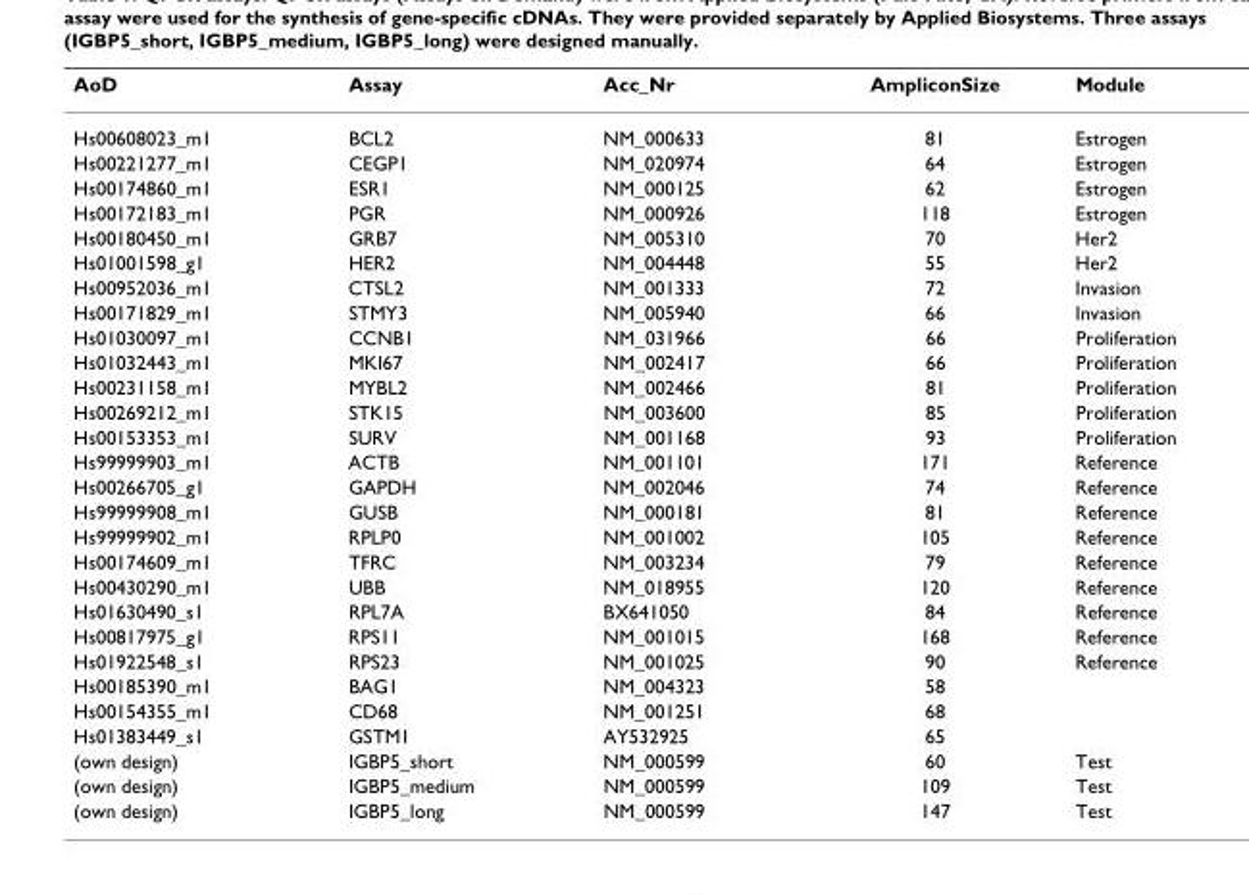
<table><thead><tr><td>AoD</td><td>Assay</td><td>Acc_Nr</td><td>AmpliconSize</td><td>Module</td></tr></thead><tbody><tr><td>Hs00608023_m1</td><td>BCL2</td><td>NM_000633</td><td>81</td><td>Estrogen</td></tr><tr><td>Hs00221277_m1</td><td>CEGP1</td><td>NM_020974</td><td>64</td><td>Estrogen</td></tr><tr><td>Hs00174860_m1</td><td>ESR1</td><td>NM_000125</td><td>62</td><td>Estrogen</td></tr><tr><td>Hs00172183_m1</td><td>PGR</td><td>NM_000926</td><td>118</td><td>Estrogen</td></tr><tr><td>Hs00180450_m1</td><td>GRB7</td><td>NM_005310</td><td>70</td><td>Her2</td></tr><tr><td>Hs01001598_g1</td><td>HER2</td><td>NM_004448</td><td>55</td><td>Her2</td></tr><tr><td>Hs00952036_m1</td><td>CTSL2</td><td>NM_001333</td><td>72</td><td>Invasion</td></tr><tr><td>Hs00171829_m1</td><td>STMY3</td><td>NM_005940</td><td>66</td><td>Invasion</td></tr><tr><td>Hs01030097_m1</td><td>CCNB1</td><td>NM_031966</td><td>66</td><td>Proliferation</td></tr><tr><td>Hs01032443_m1</td><td>MKI67</td><td>NM_002417</td><td>66</td><td>Proliferation</td></tr><tr><td>Hs00231158_m1</td><td>MYBL2</td><td>NM_002466</td><td>81</td><td>Proliferation</td></tr><tr><td>Hs00269212_m1</td><td>STK15</td><td>NM_003600</td><td>85</td><td>Proliferation</td></tr><tr><td>Hs00153353_m1</td><td>SURV</td><td>NM_001168</td><td>93</td><td>Proliferation</td></tr><tr><td>Hs99999903_m1</td><td>ACTB</td><td>NM_001101</td><td>171</td><td>Reference</td></tr><tr><td>Hs00266705_g1</td><td>GAPDH</td><td>NM_002046</td><td>74</td><td>Reference</td></tr><tr><td>Hs99999908_m1</td><td>GUSB</td><td>NM_000181</td><td>81</td><td>Reference</td></tr><tr><td>Hs99999902_m1</td><td>RPLP0</td><td>NM_001002</td><td>105</td><td>Reference</td></tr><tr><td>Hs00174609_m1</td><td>TFRC</td><td>NM_003234</td><td>79</td><td>Reference</td></tr><tr><td>Hs00430290_m1</td><td>UBB</td><td>NM_018955</td><td>120</td><td>Reference</td></tr><tr><td>Hs01630490_s1</td><td>RPL7A</td><td>BX641050</td><td>84</td><td>Reference</td></tr><tr><td>Hs00817975_g1</td><td>RPS11</td><td>NM_001015</td><td>168</td><td>Reference</td></tr><tr><td>Hs01922548_s1</td><td>RPS23</td><td>NM_001025</td><td>90</td><td>Reference</td></tr><tr><td>Hs00185390_m1</td><td>BAG1</td><td>NM_004323</td><td>58</td><td></td></tr><tr><td>Hs00154355_m1</td><td>CD68</td><td>NM_001251</td><td>68</td><td></td></tr><tr><td>Hs01383449_s1</td><td>GSTM1</td><td>AY532925</td><td>65</td><td></td></tr><tr><td>(own design)</td><td>IGBP5_short</td><td>NM_000599</td><td>60</td><td>Test</td></tr><tr><td>(own design)</td><td>IGBP5_medium</td><td>NM_000599</td><td>109</td><td>Test</td></tr><tr><td>(own design)</td><td>IGBP5_long</td><td>NM_000599</td><td>147</td><td>Test</td></tr></tbody></table>